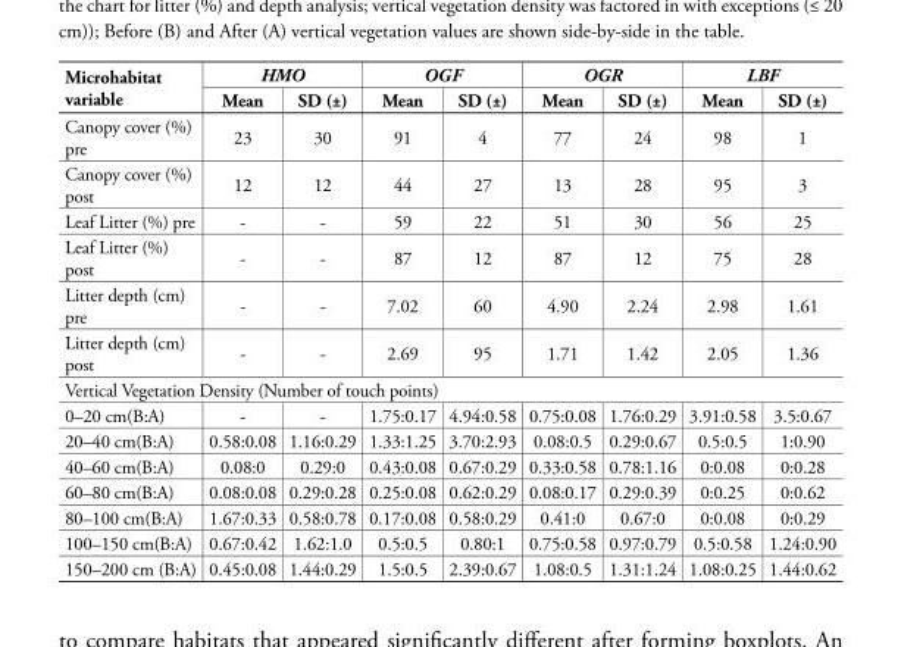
<table><thead><tr><td rowspan="2">Microhabitat variable</td><td colspan="2">HMO</td><td colspan="2">OGF</td><td colspan="2">OGR</td><td colspan="2">LBF</td></tr><tr><td>Mean</td><td>SD (±)</td><td>Mean</td><td>SD (±)</td><td>Mean</td><td>SD (±)</td><td>Mean</td><td>SD (±)</td></tr></thead><tbody><tr><td>Canopy cover (%) pre</td><td>23</td><td>30</td><td>91</td><td>4</td><td>77</td><td>24</td><td>98</td><td>1</td></tr><tr><td>Canopy cover (%) post</td><td>12</td><td>12</td><td>44</td><td>27</td><td>13</td><td>28</td><td>95</td><td>3</td></tr><tr><td>Leaf Litter (%) pre</td><td>-</td><td>-</td><td>59</td><td>22</td><td>51</td><td>30</td><td>56</td><td>25</td></tr><tr><td>Leaf Litter (%) post</td><td>-</td><td>-</td><td>87</td><td>12</td><td>87</td><td>12</td><td>75</td><td>28</td></tr><tr><td>Litter depth (cm) pre</td><td>-</td><td>-</td><td>7.02</td><td>60</td><td>4.90</td><td>2.24</td><td>2.98</td><td>1.61</td></tr><tr><td>Litter depth (cm) post</td><td>-</td><td>-</td><td>2.69</td><td>95</td><td>1.71</td><td>1.42</td><td>2.05</td><td>1.36</td></tr><tr><td colspan="9">Vertical Vegetation Density (Number of touch points)</td></tr><tr><td>0–20 cm(B:A)</td><td>-</td><td>-</td><td>1.75:0.17</td><td>4.94:0.58</td><td>0.75:0.08</td><td>1.76:0.29</td><td>3.91:0.58</td><td>3.5:0.67</td></tr><tr><td>20–40 cm(B:A)</td><td>0.58:0.08</td><td>1.16:0.29</td><td>1.33:1.25</td><td>3.70:2.93</td><td>0.08:0.5</td><td>0.29:0.67</td><td>0.5:0.5</td><td>1:0.90</td></tr><tr><td>40–60 cm(B:A)</td><td>0.08:0</td><td>0.29:0</td><td>0.43:0.08</td><td>0.67:0.29</td><td>0.33:0.58</td><td>0.78:1.16</td><td>0:0.08</td><td>0:0.28</td></tr><tr><td>60–80 cm(B:A)</td><td>0.08:0.08</td><td>0.29:0.28</td><td>0.25:0.08</td><td>0.62:0.29</td><td>0.08:0.17</td><td>0.29:0.39</td><td>0:0.25</td><td>0:0.62</td></tr><tr><td>80–100 cm(B:A)</td><td>1.67:0.33</td><td>0.58:0.78</td><td>0.17:0.08</td><td>0.58:0.29</td><td>0.41:0</td><td>0.67:0</td><td>0:0.08</td><td>0:0.29</td></tr><tr><td>100–150 cm(B:A)</td><td>0.67:0.42</td><td>1.62:1.0</td><td>0.5:0.5</td><td>0.80:1</td><td>0.75:0.58</td><td>0.97:0.79</td><td>0.5:0.58</td><td>1.24:0.90</td></tr><tr><td>150–200 cm (B:A)</td><td>0.45:0.08</td><td>1.44:0.29</td><td>1.5:0.5</td><td>2.39:0.67</td><td>1.08:0.5</td><td>1.31:1.24</td><td>1.08:0.25</td><td>1.44:0.62</td></tr></tbody></table>